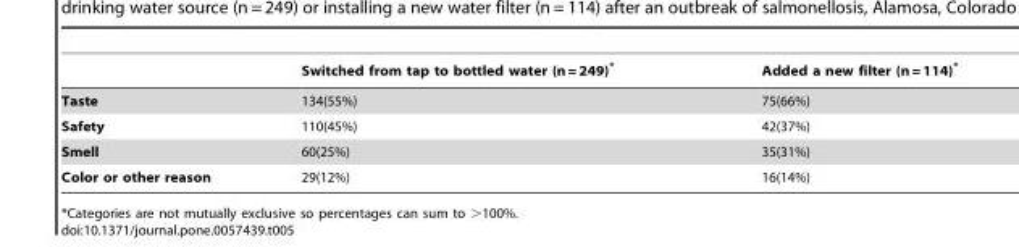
<table><thead><tr><td></td><td>Switched from tap to bottled water (n = 249)*</td><td>Added a new filter (n = 114)*</td></tr></thead><tbody><tr><td>Taste</td><td>134(55%)</td><td>75(66%)</td></tr><tr><td>Safety</td><td>110(45%)</td><td>42(37%)</td></tr><tr><td>Smell</td><td>60(25%)</td><td>35(31%)</td></tr><tr><td>Color or other reason</td><td>29(12%)</td><td>16(14%)</td></tr></tbody></table>